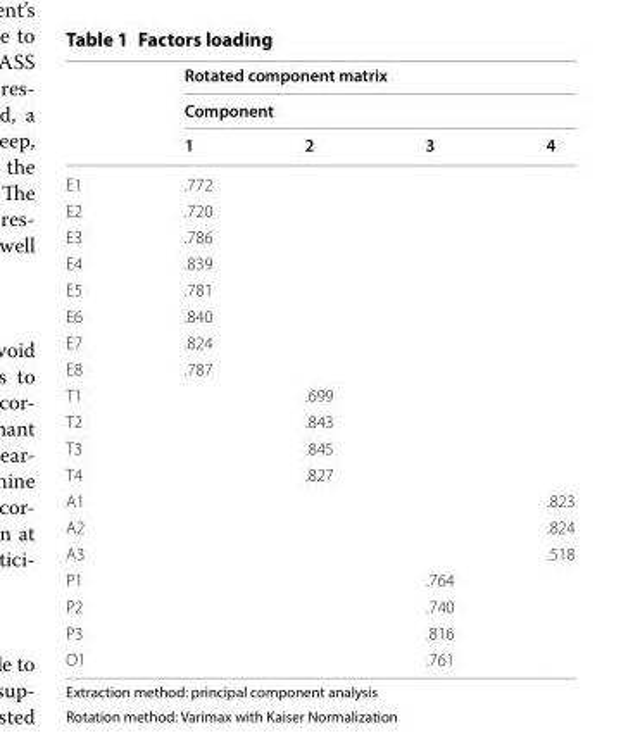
<table><thead><tr><td rowspan="3"></td><td rowspan="2" colspan="4">Rotated component matrix Component</td></tr><tr></tr><tr><td>1</td><td>2</td><td>3</td><td>4</td></tr></thead><tbody><tr><td>E1</td><td>.772</td><td></td><td></td><td></td></tr><tr><td>E2</td><td>.720</td><td></td><td></td><td></td></tr><tr><td>E3</td><td>.786</td><td></td><td></td><td></td></tr><tr><td>E4</td><td>.839</td><td></td><td></td><td></td></tr><tr><td>E5</td><td>.781</td><td></td><td></td><td></td></tr><tr><td>E6</td><td>.840</td><td></td><td></td><td></td></tr><tr><td>E7</td><td>.824</td><td></td><td></td><td></td></tr><tr><td>E8</td><td>.787</td><td></td><td></td><td></td></tr><tr><td>T1</td><td></td><td>.699</td><td></td><td></td></tr><tr><td>T2</td><td></td><td>.843</td><td></td><td></td></tr><tr><td>T3</td><td></td><td>.845</td><td></td><td></td></tr><tr><td>T4</td><td></td><td>.827</td><td></td><td></td></tr><tr><td>A1</td><td></td><td></td><td></td><td>.823</td></tr><tr><td>A2</td><td></td><td></td><td></td><td>.824</td></tr><tr><td>A3</td><td></td><td></td><td></td><td>.518</td></tr><tr><td>P1</td><td></td><td></td><td>.764</td><td></td></tr><tr><td>P2</td><td></td><td></td><td>.740</td><td></td></tr><tr><td>P3</td><td></td><td></td><td>.816</td><td></td></tr><tr><td>O1</td><td></td><td></td><td>.761</td><td></td></tr></tbody></table>